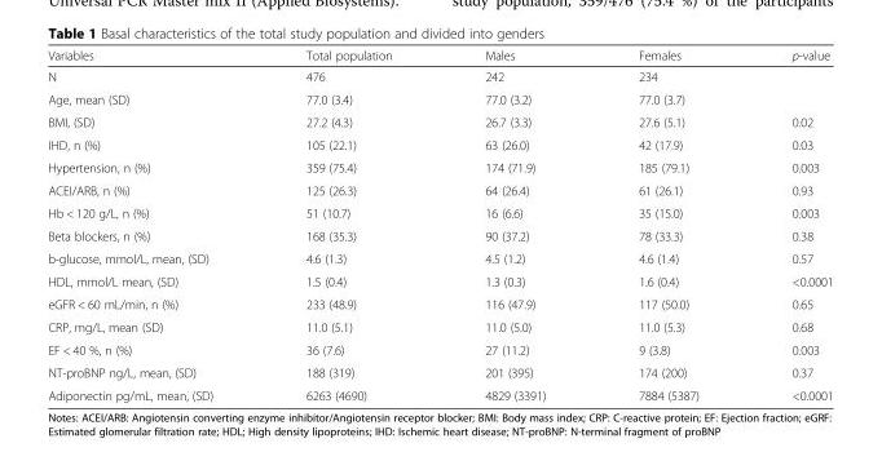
<table><thead><tr><td>Variables</td><td>Total population</td><td>Males</td><td>Females</td><td>p-value</td></tr></thead><tbody><tr><td>N</td><td>476</td><td>242</td><td>234</td><td></td></tr><tr><td>Age, mean (SD)</td><td>77.0 (3.4)</td><td>77.0 (3.2)</td><td>77.0 (3.7)</td><td></td></tr><tr><td>BMI, (SD)</td><td>27.2 (4.3)</td><td>26.7 (3.3)</td><td>27.6 (5.1)</td><td>0.02</td></tr><tr><td>IHD, n (%)</td><td>105 (22.1)</td><td>63 (26.0)</td><td>42 (17.9)</td><td>0.03</td></tr><tr><td>Hypertension, n (%)</td><td>359 (75.4)</td><td>174 (71.9)</td><td>185 (79.1)</td><td>0.003</td></tr><tr><td>ACEI/ARB, n (%)</td><td>125 (26.3)</td><td>64 (26.4)</td><td>61 (26.1)</td><td>0.93</td></tr><tr><td>Hb &lt; 120 g/L, n (%)</td><td>51 (10.7)</td><td>16 (6.6)</td><td>35 (15.0)</td><td>0.003</td></tr><tr><td>Beta blockers, n (%)</td><td>168 (35.3)</td><td>90 (37.2)</td><td>78 (33.3)</td><td>0.38</td></tr><tr><td>b-glucose, mmol/L, mean, (SD)</td><td>4.6 (1.3)</td><td>4.5 (1.2)</td><td>4.6 (1.4)</td><td>0.57</td></tr><tr><td>HDL, mmol/L mean, (SD)</td><td>1.5 (0.4)</td><td>1.3 (0.3)</td><td>1.6 (0.4)</td><td>&lt;0.0001</td></tr><tr><td>eGFR &lt; 60 mL/min, n (%)</td><td>233 (48.9)</td><td>116 (47.9)</td><td>117 (50.0)</td><td>0.65</td></tr><tr><td>CRP, mg/L, mean (SD)</td><td>11.0 (5.1)</td><td>11.0 (5.0)</td><td>11.0 (5.3)</td><td>0.68</td></tr><tr><td>EF &lt; 40 %, n (%)</td><td>36 (7.6)</td><td>27 (11.2)</td><td>9 (3.8)</td><td>0.003</td></tr><tr><td>NT-proBNP ng/L, mean, (SD)</td><td>188 (319)</td><td>201 (395)</td><td>174 (200)</td><td>0.37</td></tr><tr><td>Adiponectin pg/mL, mean, (SD)</td><td>6263 (4690)</td><td>4829 (3391)</td><td>7884 (5387)</td><td>&lt;0.0001</td></tr></tbody></table>